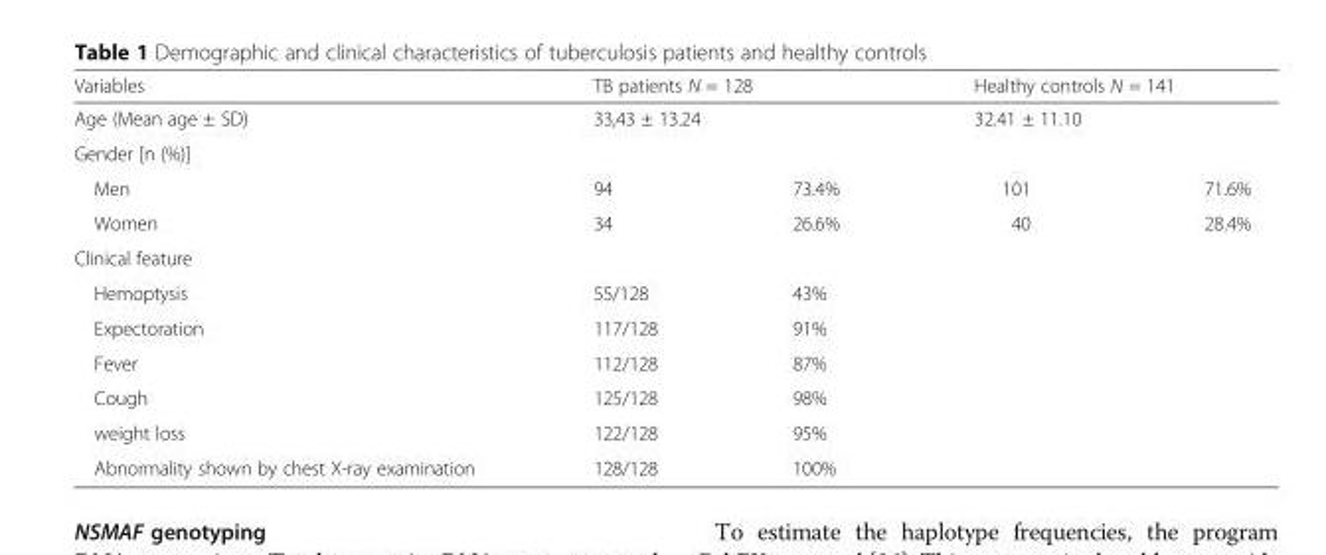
<table><thead><tr><td rowspan="2">Variables Age (Mean age ± SD)</td><td rowspan="2" colspan="2">TB patients N = 128 33,43 ± 13.24</td><td rowspan="2" colspan="2">Healthy controls N = 141 32.41 ± 11.10</td></tr><tr></tr><tr><td colspan="5">Gender [n (%)]</td></tr><tr><td>Men</td><td>94</td><td>73.4%</td><td>101</td><td>71.6%</td></tr></thead><tbody><tr><td>Women</td><td>34</td><td>26.6%</td><td>40</td><td>28.4%</td></tr><tr><td colspan="5">Clinical feature</td></tr><tr><td>Hemoptysis</td><td>55/128</td><td>43%</td><td></td><td></td></tr><tr><td>Expectoration</td><td>117/128</td><td>91%</td><td></td><td></td></tr><tr><td>Fever</td><td>112/128</td><td>87%</td><td></td><td></td></tr><tr><td>Cough</td><td>125/128</td><td>98%</td><td></td><td></td></tr><tr><td>weight loss</td><td>122/128</td><td>95%</td><td></td><td></td></tr><tr><td>Abnormality shown by chest X-ray examination</td><td>128/128</td><td>100%</td><td></td><td></td></tr></tbody></table>